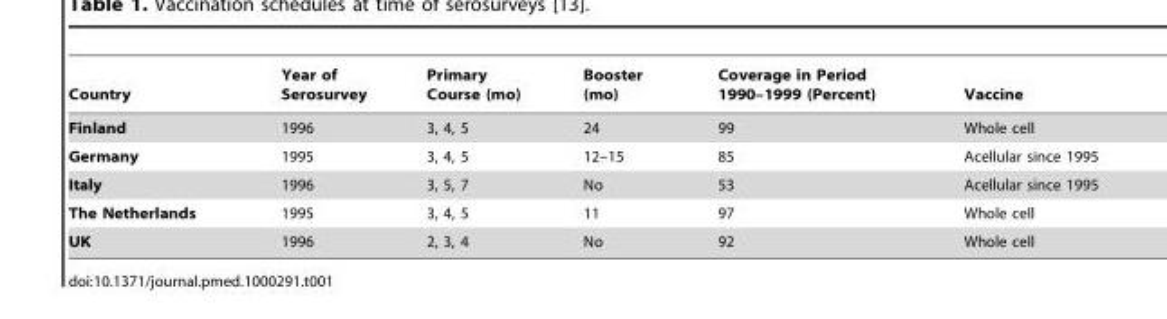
<table><thead><tr><td>Country</td><td>Year of Serosurvey</td><td>Primary Course (mo)</td><td>Booster (mo)</td><td>Coverage in Period 1990–1999 (Percent)</td><td>Vaccine</td></tr></thead><tbody><tr><td>Finland</td><td>1996</td><td>3, 4, 5</td><td>24</td><td>99</td><td>Whole cell</td></tr><tr><td>Germany</td><td>1995</td><td>3, 4, 5</td><td>12–15</td><td>85</td><td>Acellular since 1995</td></tr><tr><td>Italy</td><td>1996</td><td>3, 5, 7</td><td>No</td><td>53</td><td>Acellular since 1995</td></tr><tr><td>The Netherlands</td><td>1995</td><td>3, 4, 5</td><td>11</td><td>97</td><td>Whole cell</td></tr><tr><td>UK</td><td>1996</td><td>2, 3, 4</td><td>No</td><td>92</td><td>Whole cell</td></tr></tbody></table>